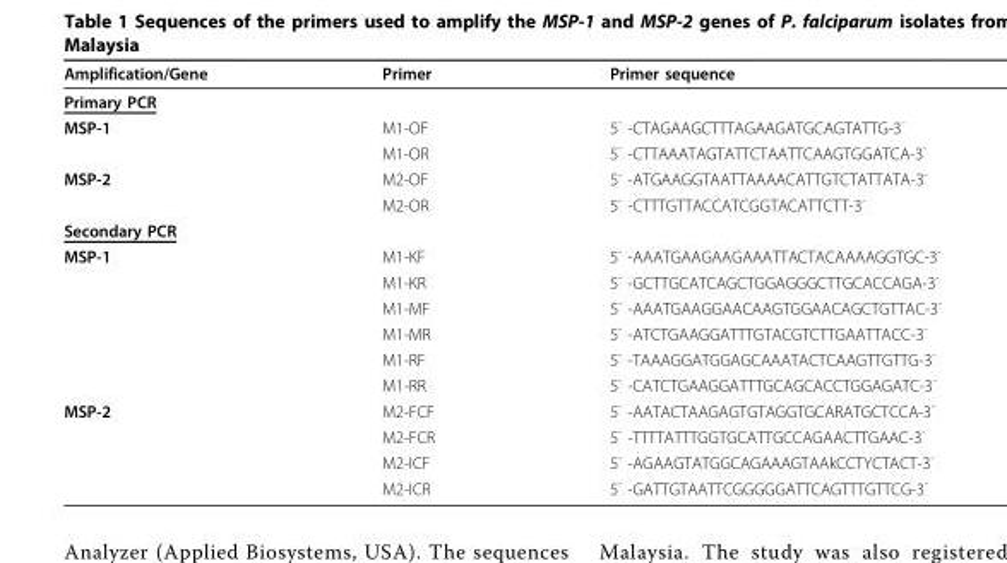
<table><thead><tr><td>Amplification/Gene</td><td>Primer</td><td>Primer sequence</td></tr></thead><tbody><tr><td colspan="3">Primary PCR</td></tr><tr><td rowspan="2">MSP-1</td><td>M1-OF</td><td>5<sup>-</sup> -CTAGAAGCTTTAGAAGATGCAGTATTG-3<sup>-</sup></td></tr><tr><td>M1-OR</td><td>5<sup>-</sup> -CTTAAATAGTATTCTAATTCAAGTGGATCA-3<sup>-</sup></td></tr><tr><td rowspan="2">MSP-2</td><td>M2-OF</td><td>5<sup>-</sup> -ATGAAGGTAATTAAAACATTGTCTATTATA-3<sup>-</sup></td></tr><tr><td>M2-OR</td><td>5<sup>-</sup> -CTTTGTTACCATCGGTACATTCTT-3<sup>-</sup></td></tr><tr><td colspan="3">Secondary PCR</td></tr><tr><td rowspan="6">MSP-1</td><td>M1-KF</td><td>5<sup>-</sup> -AAATGAAGAAGAAATTACTACAAAAGGTGC-3<sup>-</sup></td></tr><tr><td>M1-KR</td><td>5<sup>-</sup> -GCTTGCATCAGCTGGAGGGCTTGCACCAGA-3<sup>-</sup></td></tr><tr><td>M1-MF</td><td>5<sup>-</sup> -AAATGAAGGAACAAGTGGAACAGCTGTTAC-3<sup>-</sup></td></tr><tr><td>M1-MR</td><td>5<sup>-</sup> -ATCTGAAGGATTTGTACGTCTTGAATTACC-3<sup>-</sup></td></tr><tr><td>M1-RF</td><td>5<sup>-</sup> -TAAAGGATGGAGCAAATACTCAAGTTGTTG-3<sup>-</sup></td></tr><tr><td>M1-RR</td><td>5<sup>-</sup> -CATCTGAAGGATTTGCAGCACCTGGAGATC-3<sup>-</sup></td></tr><tr><td rowspan="4">MSP-2</td><td>M2-FCF</td><td>5<sup>-</sup> -AATACTAAGAGTGTAGGTGCARATGCTCCA-3<sup>-</sup></td></tr><tr><td>M2-FCR</td><td>5<sup>-</sup> -TTTTATTTGGTGCATTGCCAGAACTTGAAC-3<sup>-</sup></td></tr><tr><td>M2-ICF</td><td>5<sup>-</sup> -AGAAGTATGGCAGAAAGTAAkCCTYCTACT-3<sup>-</sup></td></tr><tr><td>M2-ICR</td><td>5<sup>-</sup> -GATTGTAATTCGGGGGATTCAGTTTGTTCG-3<sup>-</sup></td></tr></tbody></table>